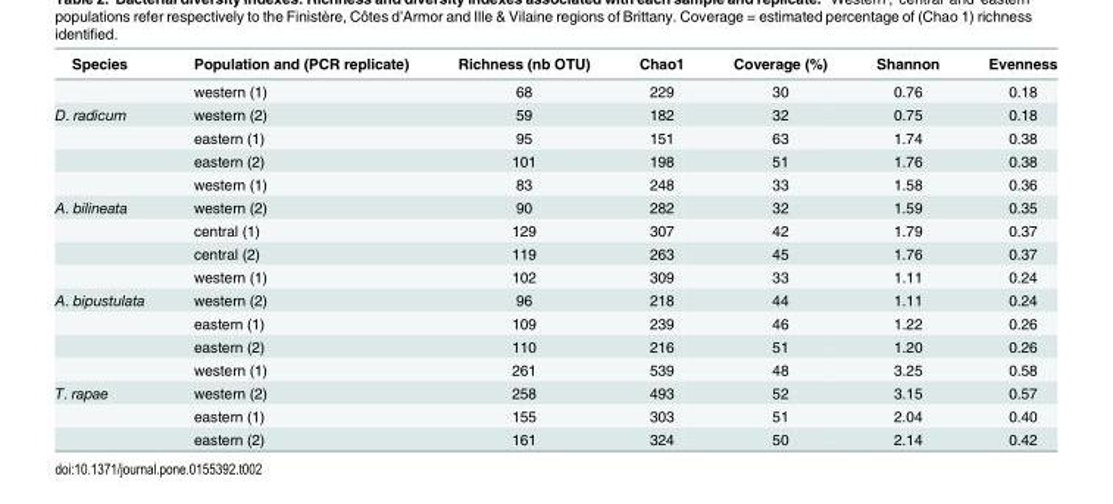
<table><thead><tr><td>Species</td><td>Population and (PCR replicate)</td><td>Richness (nb OTU)</td><td>Chao1</td><td>Coverage (%)</td><td>Shannon</td><td>Evenness</td></tr></thead><tbody><tr><td></td><td>western (1)</td><td>68</td><td>229</td><td>30</td><td>0.76</td><td>0.18</td></tr><tr><td rowspan="4">D. radicum</td><td>western (2)</td><td>59</td><td>182</td><td>32</td><td>0.75</td><td>0.18</td></tr><tr><td>eastern (1)</td><td>95</td><td>151</td><td>63</td><td>1.74</td><td>0.38</td></tr><tr><td>eastern (2)</td><td>101</td><td>198</td><td>51</td><td>1.76</td><td>0.38</td></tr><tr><td>western (1)</td><td>83</td><td>248</td><td>33</td><td>1.58</td><td>0.36</td></tr><tr><td rowspan="4">A. bilineata</td><td>western (2)</td><td>90</td><td>282</td><td>32</td><td>1.59</td><td>0.35</td></tr><tr><td>central (1)</td><td>129</td><td>307</td><td>42</td><td>1.79</td><td>0.37</td></tr><tr><td>central (2)</td><td>119</td><td>263</td><td>45</td><td>1.76</td><td>0.37</td></tr><tr><td>western (1)</td><td>102</td><td>309</td><td>33</td><td>1.11</td><td>0.24</td></tr><tr><td rowspan="4">A. bipustulata</td><td>western (2)</td><td>96</td><td>218</td><td>44</td><td>1.11</td><td>0.24</td></tr><tr><td>eastern (1)</td><td>109</td><td>239</td><td>46</td><td>1.22</td><td>0.26</td></tr><tr><td>eastern (2)</td><td>110</td><td>216</td><td>51</td><td>1.20</td><td>0.26</td></tr><tr><td>western (1)</td><td>261</td><td>539</td><td>48</td><td>3.25</td><td>0.58</td></tr><tr><td rowspan="3">T. rapae</td><td>western (2)</td><td>258</td><td>493</td><td>52</td><td>3.15</td><td>0.57</td></tr><tr><td>eastern (1)</td><td>155</td><td>303</td><td>51</td><td>2.04</td><td>0.40</td></tr><tr><td>eastern (2)</td><td>161</td><td>324</td><td>50</td><td>2.14</td><td>0.42</td></tr></tbody></table>